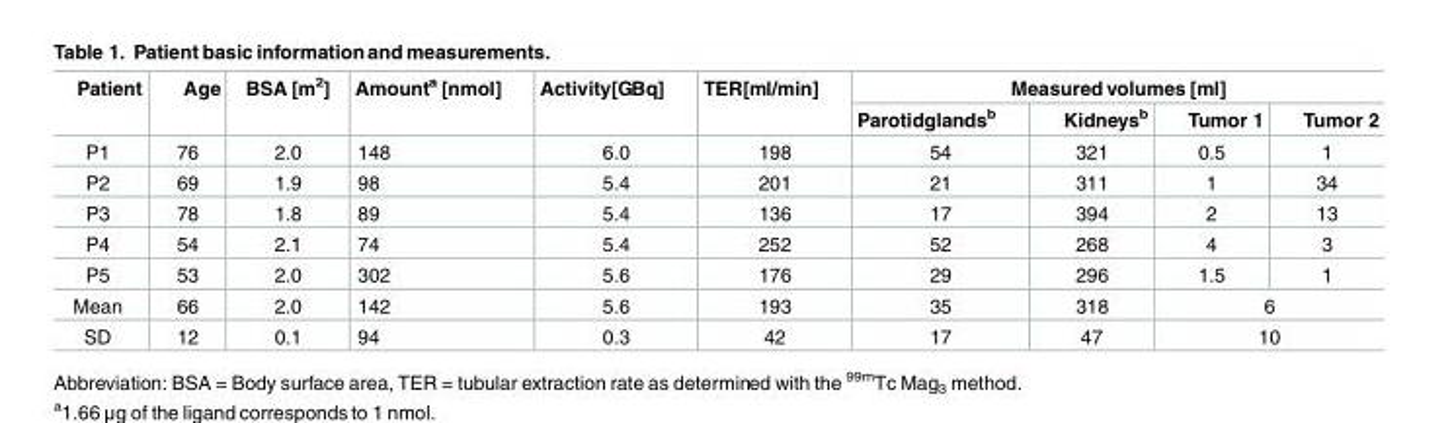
<table><thead><tr><td rowspan="2">Patient</td><td rowspan="2">Age</td><td rowspan="2">BSA [m<sup>2</sup>]</td><td rowspan="2">Amount<sup>a</sup> [nmol]</td><td rowspan="2">Activity[GBq]</td><td rowspan="2">TER[ml/min]</td><td colspan="4">Measured volumes [ml]</td></tr><tr><td>Parotidglands<sup>b</sup></td><td>Kidneys<sup>b</sup></td><td>Tumor 1</td><td>Tumor 2</td></tr></thead><tbody><tr><td>P1</td><td>76</td><td>2.0</td><td>148</td><td>6.0</td><td>198</td><td>54</td><td>321</td><td>0.5</td><td>1</td></tr><tr><td>P2</td><td>69</td><td>1.9</td><td>98</td><td>5.4</td><td>201</td><td>21</td><td>311</td><td>1</td><td>34</td></tr><tr><td>P3</td><td>78</td><td>1.8</td><td>89</td><td>5.4</td><td>136</td><td>17</td><td>394</td><td>2</td><td>13</td></tr><tr><td>P4</td><td>54</td><td>2.1</td><td>74</td><td>5.4</td><td>252</td><td>52</td><td>268</td><td>4</td><td>3</td></tr><tr><td>P5</td><td>53</td><td>2.0</td><td>302</td><td>5.6</td><td>176</td><td>29</td><td>296</td><td>1.5</td><td>1</td></tr><tr><td>Mean</td><td>66</td><td>2.0</td><td>142</td><td>5.6</td><td>193</td><td>35</td><td>318</td><td colspan="2">6</td></tr><tr><td>SD</td><td>12</td><td>0.1</td><td>94</td><td>0.3</td><td>42</td><td>17</td><td>47</td><td colspan="2">10</td></tr></tbody></table>